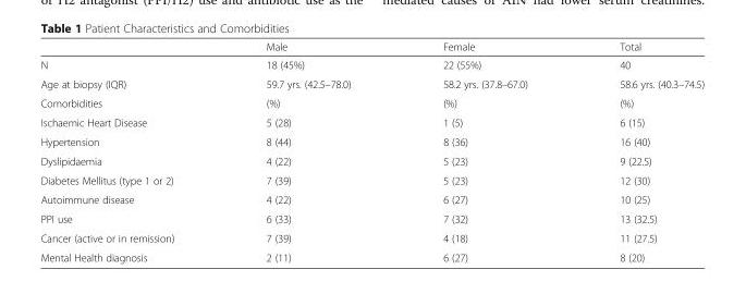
<table><thead><tr><td></td><td>Male</td><td>Female</td><td>Total</td></tr></thead><tbody><tr><td>N</td><td>18 (45%)</td><td>22 (55%)</td><td>40</td></tr><tr><td>Age at biopsy (IQR)</td><td>59.7 yrs. (42.5–78.0)</td><td>58.2 yrs. (37.8–67.0)</td><td>58.6 yrs. (40.3–74.5)</td></tr><tr><td>Comorbidities</td><td>(%)</td><td>(%)</td><td>(%)</td></tr><tr><td>Ischaemic Heart Disease</td><td>5 (28)</td><td>1 (5)</td><td>6 (15)</td></tr><tr><td>Hypertension</td><td>8 (44)</td><td>8 (36)</td><td>16 (40)</td></tr><tr><td>Dyslipidaemia</td><td>4 (22)</td><td>5 (23)</td><td>9 (22.5)</td></tr><tr><td>Diabetes Mellitus (type 1 or 2)</td><td>7 (39)</td><td>5 (23)</td><td>12 (30)</td></tr><tr><td>Autoimmune disease</td><td>4 (22)</td><td>6 (27)</td><td>10 (25)</td></tr><tr><td>PPI use</td><td>6 (33)</td><td>7 (32)</td><td>13 (32.5)</td></tr><tr><td>Cancer (active or in remission)</td><td>7 (39)</td><td>4 (18)</td><td>11 (27.5)</td></tr><tr><td>Mental Health diagnosis</td><td>2 (11)</td><td>6 (27)</td><td>8 (20)</td></tr></tbody></table>